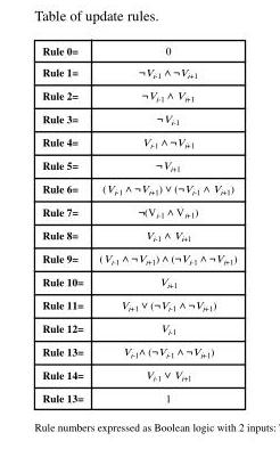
<table><tbody><tr><td>Rule 0=</td><td>0</td></tr><tr><td>Rule 1=</td><td>¬V<sub>i-1</sub> ∧ ¬V<sub>i+1</sub></td></tr><tr><td>Rule 2=</td><td>¬V<sub>i-1</sub> ∧ V<sub>i+1</sub></td></tr><tr><td>Rule 3=</td><td>¬V<sub>i-1</sub></td></tr><tr><td>Rule 4=</td><td>V<sub>i-1</sub> ∧ ¬V<sub>i+1</sub></td></tr><tr><td>Rule 5=</td><td>¬V<sub>i+1</sub></td></tr><tr><td>Rule 6=</td><td>(V<sub>i-1</sub> ∧ ¬V<sub>i+1</sub>) ∨ (¬V<sub>i-1</sub> ∧ V<sub>i+1</sub>)</td></tr><tr><td>Rule 7=</td><td>¬(V<sub>i-1</sub> ∧ V<sub>i+1</sub>)</td></tr><tr><td>Rule 8=</td><td>V<sub>i-1</sub> ∧ V<sub>i+1</sub></td></tr><tr><td>Rule 9=</td><td>(V<sub>i-1</sub> ∧ ¬V<sub>i+1</sub>) ∧ (¬V<sub>i-1</sub> ∧ ¬V<sub>i+1</sub>)</td></tr><tr><td>Rule 10=</td><td>V<sub>i+1</sub></td></tr><tr><td>Rule 11=</td><td>V<sub>i+1</sub> ∨ (¬V<sub>i-1</sub> ∧ ¬V<sub>i+1</sub>)</td></tr><tr><td>Rule 12=</td><td>V<sub>i-1</sub></td></tr><tr><td>Rule 13=</td><td>V<sub>i-1</sub>∧ (¬V<sub>i-1</sub> ∧ ¬V<sub>i+1</sub>)</td></tr><tr><td>Rule 14=</td><td>V<sub>i-1</sub> ∨ V<sub>i+1</sub></td></tr><tr><td>Rule 13=</td><td>1</td></tr></tbody></table>